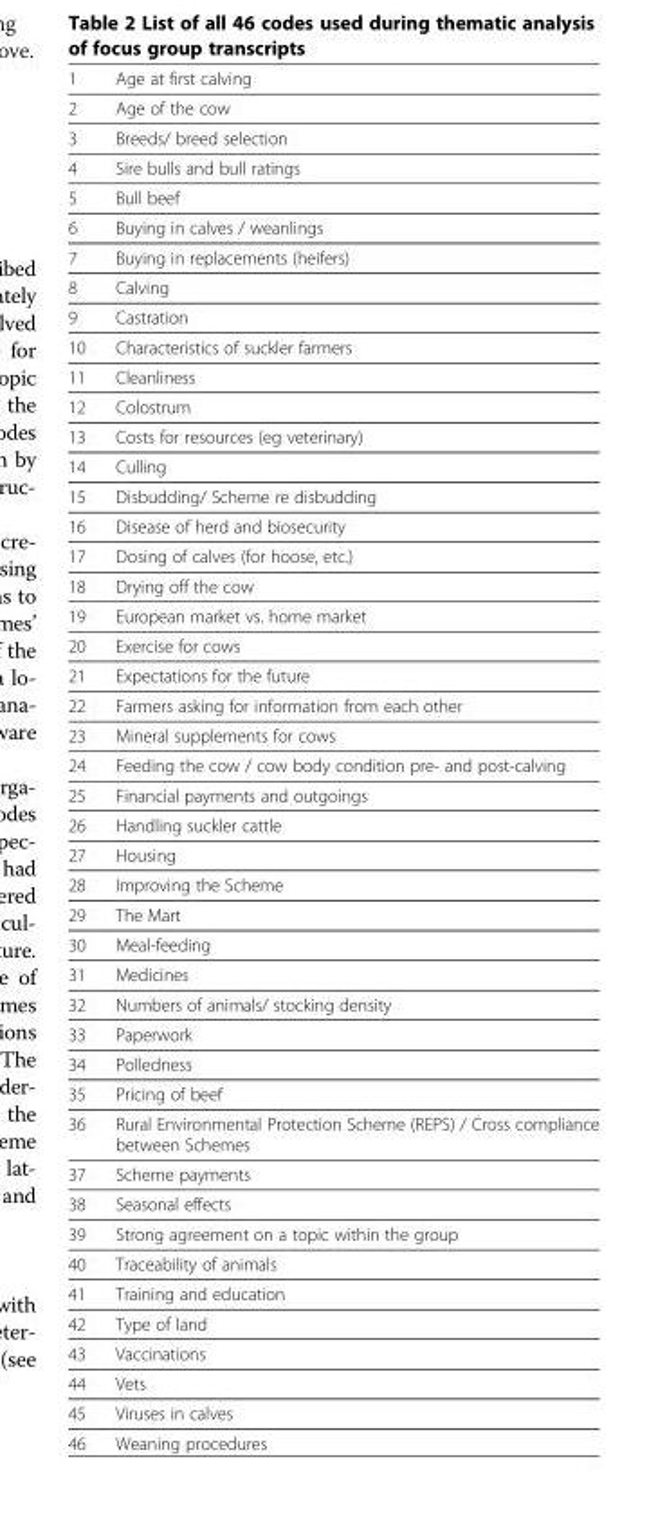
<table><thead><tr><td>1</td><td>Age at first calving</td></tr></thead><tbody><tr><td>2</td><td>Age of the cow</td></tr><tr><td>3</td><td>Breeds/ breed selection</td></tr><tr><td>4</td><td>Sire bulls and bull ratings</td></tr><tr><td>5</td><td>Bull beef</td></tr><tr><td>6</td><td>Buying in calves / weanlings</td></tr><tr><td>7</td><td>Buying in replacements (heifers)</td></tr><tr><td>8</td><td>Calving</td></tr><tr><td>9</td><td>Castration</td></tr><tr><td>10</td><td>Characteristics of suckler farmers</td></tr><tr><td>11</td><td>Cleanliness</td></tr><tr><td>12</td><td>Colostrum</td></tr><tr><td>13</td><td>Costs for resources (eg veterinary)</td></tr><tr><td>14</td><td>Culling</td></tr><tr><td>15</td><td>Disbudding/ Scheme re disbudding</td></tr><tr><td>16</td><td>Disease of herd and biosecurity</td></tr><tr><td>17</td><td>Dosing of calves (for hoose, etc.)</td></tr><tr><td>18</td><td>Drying off the cow</td></tr><tr><td>19</td><td>European market vs. home market</td></tr><tr><td>20</td><td>Exercise for cows</td></tr><tr><td>21</td><td>Expectations for the future</td></tr><tr><td>22</td><td>Farmers asking for information from each other</td></tr><tr><td>23</td><td>Mineral supplements for cows</td></tr><tr><td>24</td><td>Feeding the cow / cow body condition pre- and post-calving</td></tr><tr><td>25</td><td>Financial payments and outgoings</td></tr><tr><td>26</td><td>Handling suckler cattle</td></tr><tr><td>27</td><td>Housing</td></tr><tr><td>28</td><td>Improving the Scheme</td></tr><tr><td>29</td><td>The Mart</td></tr><tr><td>30</td><td>Meal-feeding</td></tr><tr><td>31</td><td>Medicines</td></tr><tr><td>32</td><td>Numbers of animals/ stocking density</td></tr><tr><td>33</td><td>Paperwork</td></tr><tr><td>34</td><td>Polledness</td></tr><tr><td>35</td><td>Pricing of beef</td></tr><tr><td>36</td><td>Rural Environmental Protection Scheme (REPS) / Cross compliance between Schemes</td></tr><tr><td>37</td><td>Scheme payments</td></tr><tr><td>38</td><td>Seasonal effects</td></tr><tr><td>39</td><td>Strong agreement on a topic within the group</td></tr><tr><td>40</td><td>Traceability of animals</td></tr><tr><td>41</td><td>Training and education</td></tr><tr><td>42</td><td>Type of land</td></tr><tr><td>43</td><td>Vaccinations</td></tr><tr><td>44</td><td>Vets</td></tr><tr><td>45</td><td>Viruses in calves</td></tr><tr><td>46</td><td>Weaning procedures</td></tr></tbody></table>